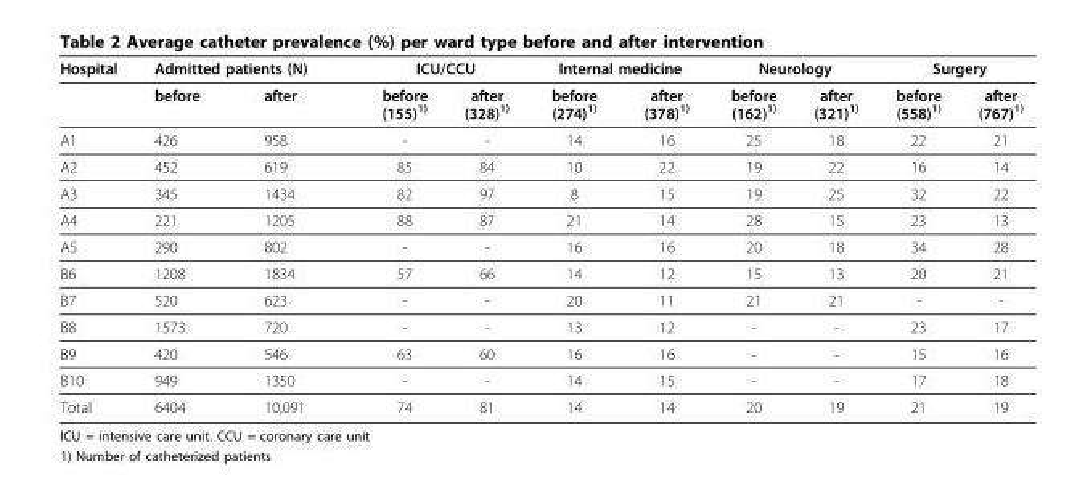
<table><thead><tr><td rowspan="2">Hospital</td><td colspan="2">Admitted patients (N)</td><td colspan="2">ICU/CCU</td><td colspan="2">Internal medicine</td><td colspan="2">Neurology</td><td colspan="2">Surgery</td></tr><tr><td>before</td><td>after</td><td>before (155)<sup>1)</sup></td><td>after (328)<sup>1)</sup></td><td>before (274)<sup>1)</sup></td><td>after (378)<sup>1)</sup></td><td>before (162)<sup>1)</sup></td><td>after (321)<sup>1)</sup></td><td>before (558)<sup>1)</sup></td><td>after (767)<sup>1)</sup></td></tr></thead><tbody><tr><td>A1</td><td>426</td><td>958</td><td>-</td><td>-</td><td>14</td><td>16</td><td>25</td><td>18</td><td>22</td><td>21</td></tr><tr><td>A2</td><td>452</td><td>619</td><td>85</td><td>84</td><td>10</td><td>22</td><td>19</td><td>22</td><td>16</td><td>14</td></tr><tr><td>A3</td><td>345</td><td>1434</td><td>82</td><td>97</td><td>8</td><td>15</td><td>19</td><td>25</td><td>32</td><td>22</td></tr><tr><td>A4</td><td>221</td><td>1205</td><td>88</td><td>87</td><td>21</td><td>14</td><td>28</td><td>15</td><td>23</td><td>13</td></tr><tr><td>A5</td><td>290</td><td>802</td><td>-</td><td>-</td><td>16</td><td>16</td><td>20</td><td>18</td><td>34</td><td>28</td></tr><tr><td>B6</td><td>1208</td><td>1834</td><td>57</td><td>66</td><td>14</td><td>12</td><td>15</td><td>13</td><td>20</td><td>21</td></tr><tr><td>B7</td><td>520</td><td>623</td><td>-</td><td>-</td><td>20</td><td>11</td><td>21</td><td>21</td><td>-</td><td>-</td></tr><tr><td>B8</td><td>1573</td><td>720</td><td>-</td><td>-</td><td>13</td><td>12</td><td>-</td><td>-</td><td>23</td><td>17</td></tr><tr><td>B9</td><td>420</td><td>546</td><td>63</td><td>60</td><td>16</td><td>16</td><td>-</td><td>-</td><td>15</td><td>16</td></tr><tr><td>B10</td><td>949</td><td>1350</td><td>-</td><td>-</td><td>14</td><td>15</td><td>-</td><td>-</td><td>17</td><td>18</td></tr><tr><td>Total</td><td>6404</td><td>10,091</td><td>74</td><td>81</td><td>14</td><td>14</td><td>20</td><td>19</td><td>21</td><td>19</td></tr></tbody></table>